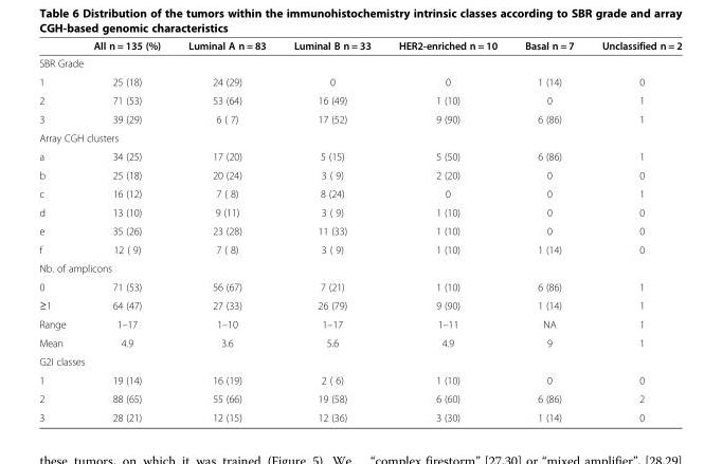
<table><thead><tr><td></td><td>All n = 135 (%)</td><td>Luminal A n = 83</td><td>Luminal B n = 33</td><td>HER2-enriched n = 10</td><td>Basal n = 7</td><td>Unclassified n = 2</td></tr></thead><tbody><tr><td colspan="7">SBR Grade</td></tr><tr><td>1</td><td>25 (18)</td><td>24 (29)</td><td>0</td><td>0</td><td>1 (14)</td><td>0</td></tr><tr><td>2</td><td>71 (53)</td><td>53 (64)</td><td>16 (49)</td><td>1 (10)</td><td>0</td><td>1</td></tr><tr><td>3</td><td>39 (29)</td><td>6 ( 7)</td><td>17 (52)</td><td>9 (90)</td><td>6 (86)</td><td>1</td></tr><tr><td colspan="7">Array CGH clusters</td></tr><tr><td>a</td><td>34 (25)</td><td>17 (20)</td><td>5 (15)</td><td>5 (50)</td><td>6 (86)</td><td>1</td></tr><tr><td>b</td><td>25 (18)</td><td>20 (24)</td><td>3 ( 9)</td><td>2 (20)</td><td>0</td><td>0</td></tr><tr><td>c</td><td>16 (12)</td><td>7 ( 8)</td><td>8 (24)</td><td>0</td><td>0</td><td>1</td></tr><tr><td>d</td><td>13 (10)</td><td>9 (11)</td><td>3 ( 9)</td><td>1 (10)</td><td>0</td><td>0</td></tr><tr><td>e</td><td>35 (26)</td><td>23 (28)</td><td>11 (33)</td><td>1 (10)</td><td>0</td><td>0</td></tr><tr><td>f</td><td>12 ( 9)</td><td>7 ( 8)</td><td>3 ( 9)</td><td>1 (10)</td><td>1 (14)</td><td>0</td></tr><tr><td colspan="7">Nb. of amplicons</td></tr><tr><td>0</td><td>71 (53)</td><td>56 (67)</td><td>7 (21)</td><td>1 (10)</td><td>6 (86)</td><td>1</td></tr><tr><td>≥1</td><td>64 (47)</td><td>27 (33)</td><td>26 (79)</td><td>9 (90)</td><td>1 (14)</td><td>1</td></tr><tr><td>Range</td><td>1–17</td><td>1–10</td><td>1–17</td><td>1–11</td><td>NA</td><td>1</td></tr><tr><td>Mean</td><td>4.9</td><td>3.6</td><td>5.6</td><td>4.9</td><td>9</td><td>1</td></tr><tr><td colspan="7">G2I classes</td></tr><tr><td>1</td><td>19 (14)</td><td>16 (19)</td><td>2 ( 6)</td><td>1 (10)</td><td>0</td><td>0</td></tr><tr><td>2</td><td>88 (65)</td><td>55 (66)</td><td>19 (58)</td><td>6 (60)</td><td>6 (86)</td><td>2</td></tr><tr><td>3</td><td>28 (21)</td><td>12 (15)</td><td>12 (36)</td><td>3 (30)</td><td>1 (14)</td><td>0</td></tr></tbody></table>